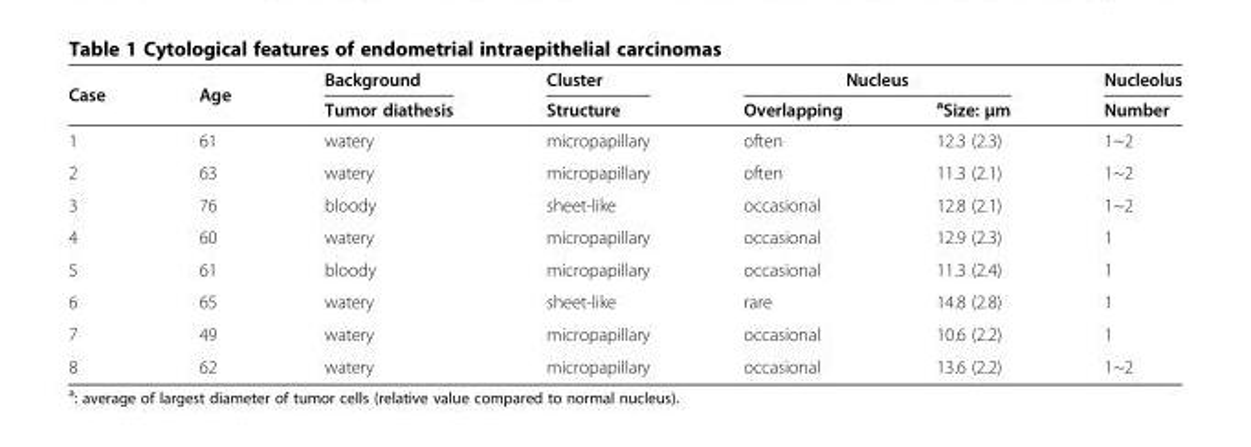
<table><thead><tr><td rowspan="2">Case</td><td rowspan="2">Age</td><td rowspan="2">Background Tumor diathesis</td><td rowspan="2">Cluster Structure</td><td colspan="2">Nucleus</td><td rowspan="2">Nucleolus Number</td></tr><tr><td>Overlapping</td><td><sup>a</sup>Size: μm</td></tr></thead><tbody><tr><td>1</td><td>61</td><td>watery</td><td>micropapillary</td><td>often</td><td>12.3 (2.3)</td><td>1~2</td></tr><tr><td>2</td><td>63</td><td>watery</td><td>micropapillary</td><td>often</td><td>11.3 (2.1)</td><td>1~2</td></tr><tr><td>3</td><td>76</td><td>bloody</td><td>sheet-like</td><td>occasional</td><td>12.8 (2.1)</td><td>1~2</td></tr><tr><td>4</td><td>60</td><td>watery</td><td>micropapillary</td><td>occasional</td><td>12.9 (2.3)</td><td>1</td></tr><tr><td>5</td><td>61</td><td>bloody</td><td>micropapillary</td><td>occasional</td><td>11.3 (2.4)</td><td>1</td></tr><tr><td>6</td><td>65</td><td>watery</td><td>sheet-like</td><td>rare</td><td>14.8 (2.8)</td><td>1</td></tr><tr><td>7</td><td>49</td><td>watery</td><td>micropapillary</td><td>occasional</td><td>10.6 (2.2)</td><td>1</td></tr><tr><td>8</td><td>62</td><td>watery</td><td>micropapillary</td><td>occasional</td><td>13.6 (2.2)</td><td>1~2</td></tr></tbody></table>